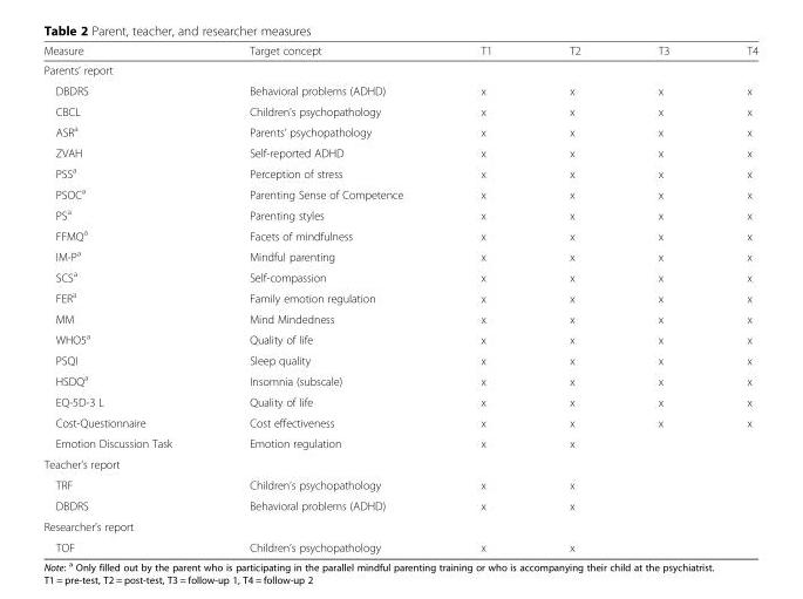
<table><thead><tr><td>Measure</td><td>Target concept</td><td>T1</td><td>T2</td><td>T3</td><td>T4</td></tr></thead><tbody><tr><td colspan="6">Parents’ report</td></tr><tr><td>DBDRS</td><td>Behavioral problems (ADHD)</td><td>x</td><td>x</td><td>x</td><td>x</td></tr><tr><td>CBCL</td><td>Children’s psychopathology</td><td>x</td><td>x</td><td>x</td><td>x</td></tr><tr><td>ASR<sup>a</sup></td><td>Parents’ psychopathology</td><td>x</td><td>x</td><td>x</td><td>x</td></tr><tr><td>ZVAH</td><td>Self-reported ADHD</td><td>x</td><td>x</td><td>x</td><td>x</td></tr><tr><td>PSS<sup>a</sup></td><td>Perception of stress</td><td>x</td><td>x</td><td>x</td><td>x</td></tr><tr><td>PSOC<sup>a</sup></td><td>Parenting Sense of Competence</td><td>x</td><td>x</td><td>x</td><td>x</td></tr><tr><td>PS<sup>a</sup></td><td>Parenting styles</td><td>x</td><td>x</td><td>x</td><td>x</td></tr><tr><td>FFMQ<sup>a</sup></td><td>Facets of mindfulness</td><td>x</td><td>x</td><td>x</td><td>x</td></tr><tr><td>IM-P<sup>a</sup></td><td>Mindful parenting</td><td>x</td><td>x</td><td>x</td><td>x</td></tr><tr><td>SCS<sup>a</sup></td><td>Self-compassion</td><td>x</td><td>x</td><td>x</td><td>x</td></tr><tr><td>FER<sup>a</sup></td><td>Family emotion regulation</td><td>x</td><td>x</td><td>x</td><td>x</td></tr><tr><td>MM</td><td>Mind Mindedness</td><td>x</td><td>x</td><td>x</td><td>x</td></tr><tr><td>WHO5<sup>a</sup></td><td>Quality of life</td><td>x</td><td>x</td><td>x</td><td>x</td></tr><tr><td>PSQI</td><td>Sleep quality</td><td>x</td><td>x</td><td>x</td><td>x</td></tr><tr><td>HSDQ<sup>a</sup></td><td>Insomnia (subscale)</td><td>x</td><td>x</td><td>x</td><td>x</td></tr><tr><td>EQ-5D-3 L</td><td>Quality of life</td><td>x</td><td>x</td><td>x</td><td>x</td></tr><tr><td>Cost-Questionnaire</td><td>Cost effectiveness</td><td>x</td><td>x</td><td>x</td><td>x</td></tr><tr><td>Emotion Discussion Task</td><td>Emotion regulation</td><td>x</td><td>x</td><td></td><td></td></tr><tr><td colspan="6">Teacher’s report</td></tr><tr><td>TRF</td><td>Children’s psychopathology</td><td>x</td><td>x</td><td></td><td></td></tr><tr><td>DBDRS</td><td>Behavioral problems (ADHD)</td><td>x</td><td>x</td><td></td><td></td></tr><tr><td colspan="6">Researcher’s report</td></tr><tr><td>TOF</td><td>Children’s psychopathology</td><td>x</td><td>x</td><td></td><td></td></tr></tbody></table>